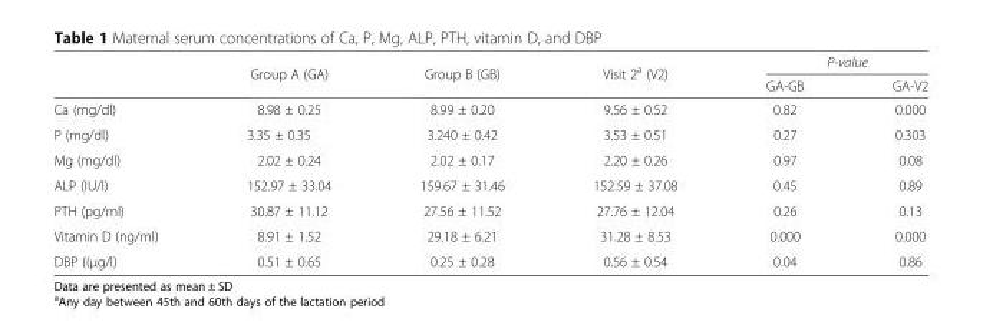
<table><thead><tr><td rowspan="2"></td><td rowspan="2">Group A (GA)</td><td rowspan="2">Group B (GB)</td><td rowspan="2">Visit 2<sup>a</sup> (V2)</td><td colspan="2">P-value</td></tr><tr><td>GA-GB</td><td>GA-V2</td></tr></thead><tbody><tr><td>Ca (mg/dl)</td><td>8.98 ± 0.25</td><td>8.99 ± 0.20</td><td>9.56 ± 0.52</td><td>0.82</td><td>0.000</td></tr><tr><td>P (mg/dl)</td><td>3.35 ± 0.35</td><td>3.240 ± 0.42</td><td>3.53 ± 0.51</td><td>0.27</td><td>0.303</td></tr><tr><td>Mg (mg/dl)</td><td>2.02 ± 0.24</td><td>2.02 ± 0.17</td><td>2.20 ± 0.26</td><td>0.97</td><td>0.08</td></tr><tr><td>ALP (IU/l)</td><td>152.97 ± 33.04</td><td>159.67 ± 31.46</td><td>152.59 ± 37.08</td><td>0.45</td><td>0.89</td></tr><tr><td>PTH (pg/ml)</td><td>30.87 ± 11.12</td><td>27.56 ± 11.52</td><td>27.76 ± 12.04</td><td>0.26</td><td>0.13</td></tr><tr><td>Vitamin D (ng/ml)</td><td>8.91 ± 1.52</td><td>29.18 ± 6.21</td><td>31.28 ± 8.53</td><td>0.000</td><td>0.000</td></tr><tr><td>DBP ((μg/l)</td><td>0.51 ± 0.65</td><td>0.25 ± 0.28</td><td>0.56 ± 0.54</td><td>0.04</td><td>0.86</td></tr></tbody></table>